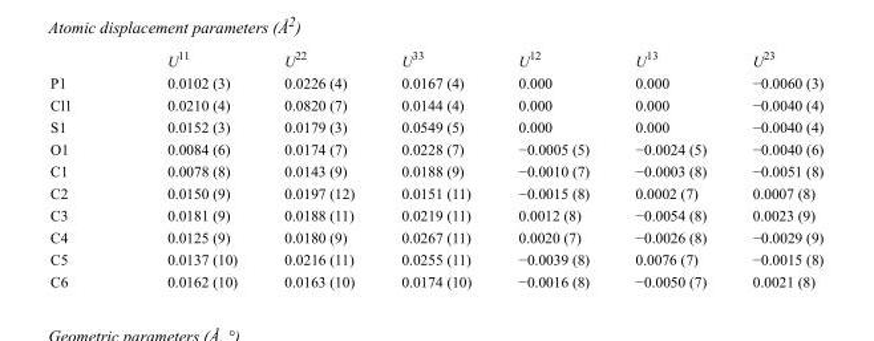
<table><thead><tr><td></td><td>U<sup>11</sup></td><td>U<sup>22</sup></td><td>U<sup>33</sup></td><td>U<sup>12</sup></td><td>U<sup>13</sup></td><td>U<sup>23</sup></td></tr></thead><tbody><tr><td>P1</td><td>0.0102 (3)</td><td>0.0226 (4)</td><td>0.0167 (4)</td><td>0.000</td><td>0.000</td><td>−0.0060 (3)</td></tr><tr><td>Cl1</td><td>0.0210 (4)</td><td>0.0820 (7)</td><td>0.0144 (4)</td><td>0.000</td><td>0.000</td><td>−0.0040 (4)</td></tr><tr><td>S1</td><td>0.0152 (3)</td><td>0.0179 (3)</td><td>0.0549 (5)</td><td>0.000</td><td>0.000</td><td>−0.0040 (4)</td></tr><tr><td>O1</td><td>0.0084 (6)</td><td>0.0174 (7)</td><td>0.0228 (7)</td><td>−0.0005 (5)</td><td>−0.0024 (5)</td><td>−0.0040 (6)</td></tr><tr><td>C1</td><td>0.0078 (8)</td><td>0.0143 (9)</td><td>0.0188 (9)</td><td>−0.0010 (7)</td><td>−0.0003 (8)</td><td>−0.0051 (8)</td></tr><tr><td>C2</td><td>0.0150 (9)</td><td>0.0197 (12)</td><td>0.0151 (11)</td><td>−0.0015 (8)</td><td>0.0002 (7)</td><td>0.0007 (8)</td></tr><tr><td>C3</td><td>0.0181 (9)</td><td>0.0188 (11)</td><td>0.0219 (11)</td><td>0.0012 (8)</td><td>−0.0054 (8)</td><td>0.0023 (9)</td></tr><tr><td>C4</td><td>0.0125 (9)</td><td>0.0180 (9)</td><td>0.0267 (11)</td><td>0.0020 (7)</td><td>−0.0026 (8)</td><td>−0.0029 (9)</td></tr><tr><td>C5</td><td>0.0137 (10)</td><td>0.0216 (11)</td><td>0.0255 (11)</td><td>−0.0039 (8)</td><td>0.0076 (7)</td><td>−0.0015 (8)</td></tr><tr><td>C6</td><td>0.0162 (10)</td><td>0.0163 (10)</td><td>0.0174 (10)</td><td>−0.0016 (8)</td><td>−0.0050 (7)</td><td>0.0021 (8)</td></tr></tbody></table>